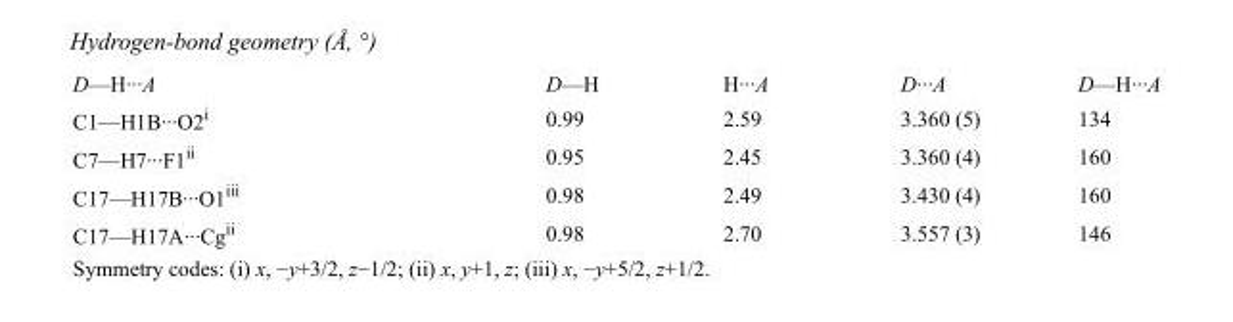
<table><tbody><tr><td>D—H···A</td><td>D—H</td><td>H···A</td><td>D···A</td><td>D—H···A</td></tr><tr><td>C1—H1B···O2<sup>i</sup></td><td>0.99</td><td>2.59</td><td>3.360 (5)</td><td>134</td></tr><tr><td>C7—H7···F1<sup>ii</sup></td><td>0.95</td><td>2.45</td><td>3.360 (4)</td><td>160</td></tr><tr><td>C17—H17B···O1<sup>iii</sup></td><td>0.98</td><td>2.49</td><td>3.430 (4)</td><td>160</td></tr><tr><td>C17—H17A···Cg<sup>ii</sup></td><td>0.98</td><td>2.70</td><td>3.557 (3)</td><td>146</td></tr></tbody></table>